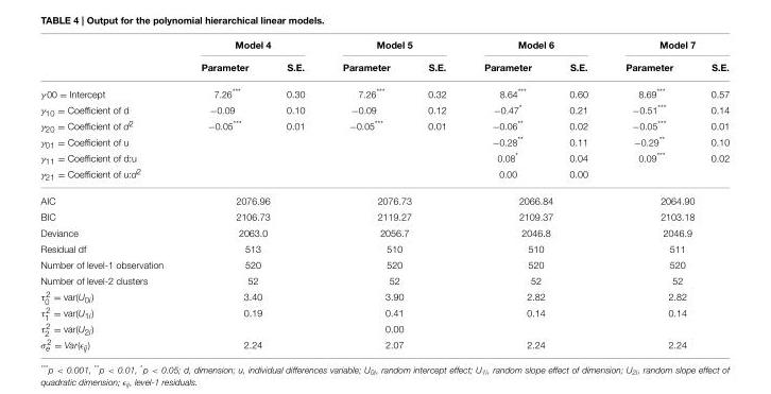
<table><thead><tr><td rowspan="2"></td><td colspan="2">Model 4</td><td colspan="2">Model 5</td><td colspan="2">Model 6</td><td colspan="2">Model 7</td></tr><tr><td>Parameter</td><td>S.E.</td><td>Parameter</td><td>S.E.</td><td>Parameter</td><td>S.E.</td><td>Parameter</td><td>S.E.</td></tr></thead><tbody><tr><td>γ 00 = Intercept</td><td>7.26***</td><td>0.30</td><td>7.26***</td><td>0.32</td><td>8.64***</td><td>0.60</td><td>8.69***</td><td>0.57</td></tr><tr><td>γ<sub>10</sub> = Coefficient of d</td><td>−0.09</td><td>0.10</td><td>−0.09</td><td>0.12</td><td>−0.47*</td><td>0.21</td><td>−0.51***</td><td>0.14</td></tr><tr><td>γ<sub>20</sub> = Coefficient of d<sup>2</sup></td><td>−0.05***</td><td>0.01</td><td>−0.05***</td><td>0.01</td><td>−0.06**</td><td>0.02</td><td>−0.05***</td><td>0.01</td></tr><tr><td>γ<sub>01</sub> = Coefficient of u</td><td></td><td></td><td></td><td></td><td>−0.28**</td><td>0.11</td><td>−0.29**</td><td>0.10</td></tr><tr><td>γ<sub>11</sub> = Coefficient of d:u</td><td></td><td></td><td></td><td></td><td>0.08*</td><td>0.04</td><td>0.09***</td><td>0.02</td></tr><tr><td>γ<sub>21</sub> = Coefficient of u:d<sup>2</sup></td><td></td><td></td><td></td><td></td><td>0.00</td><td>0.00</td><td></td><td></td></tr><tr><td>AIC</td><td colspan="2">2076.96</td><td colspan="2">2076.73</td><td colspan="2">2066.84</td><td colspan="2">2064.90</td></tr><tr><td>BIC</td><td colspan="2">2106.73</td><td colspan="2">2119.27</td><td colspan="2">2109.37</td><td colspan="2">2103.18</td></tr><tr><td>Deviance</td><td colspan="2">2063.0</td><td colspan="2">2056.7</td><td colspan="2">2046.8</td><td colspan="2">2046.9</td></tr><tr><td>Residual df</td><td colspan="2">513</td><td colspan="2">510</td><td colspan="2">510</td><td colspan="2">511</td></tr><tr><td>Number of level-1 observation</td><td colspan="2">520</td><td colspan="2">520</td><td colspan="2">520</td><td colspan="2">520</td></tr><tr><td>Number of level-2 clusters</td><td colspan="2">52</td><td colspan="2">52</td><td colspan="2">52</td><td colspan="2">52</td></tr><tr><td>τ<sup>2</sup> <sub>0</sub> = var(U<sub>0i</sub>)</td><td colspan="2">3.40</td><td colspan="2">3.90</td><td colspan="2">2.82</td><td colspan="2">2.82</td></tr><tr><td>τ<sup>2</sup> <sub>1</sub> = var(U<sub>1i</sub>)</td><td colspan="2">0.19</td><td colspan="2">0.41</td><td colspan="2">0.14</td><td colspan="2">0.14</td></tr><tr><td>τ<sup>2</sup> <sub>2</sub> = var(U<sub>2i</sub>)</td><td colspan="2"></td><td colspan="2">0.00</td><td colspan="2"></td><td colspan="2"></td></tr><tr><td>σ2e = Var(ǫij)</td><td colspan="2">2.24</td><td colspan="2">2.07</td><td colspan="2">2.24</td><td colspan="2">2.24</td></tr></tbody></table>